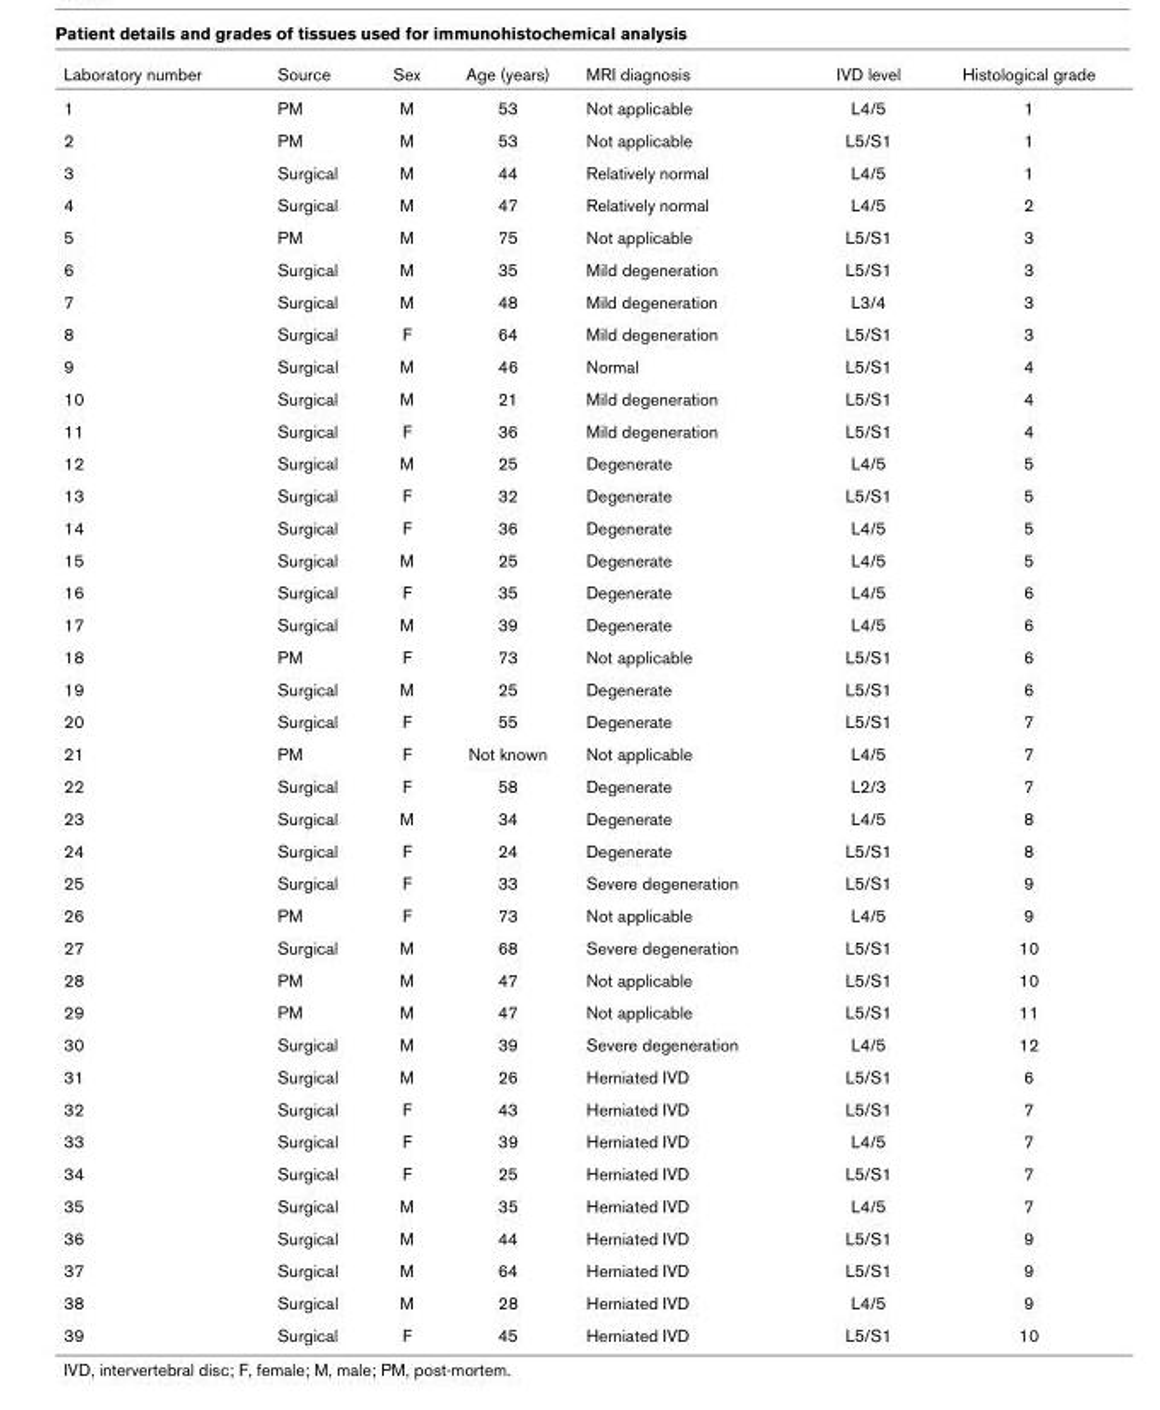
<table><thead><tr><td>Laboratory number</td><td>Source</td><td>Sex</td><td>Age (years)</td><td>MRI diagnosis</td><td>IVD level</td><td>Histological grade</td></tr></thead><tbody><tr><td>1</td><td>PM</td><td>M</td><td>53</td><td>Not applicable</td><td>L4/5</td><td>1</td></tr><tr><td>2</td><td>PM</td><td>M</td><td>53</td><td>Not applicable</td><td>L5/S1</td><td>1</td></tr><tr><td>3</td><td>Surgical</td><td>M</td><td>44</td><td>Relatively normal</td><td>L4/5</td><td>1</td></tr><tr><td>4</td><td>Surgical</td><td>M</td><td>47</td><td>Relatively normal</td><td>L4/5</td><td>2</td></tr><tr><td>5</td><td>PM</td><td>M</td><td>75</td><td>Not applicable</td><td>L5/S1</td><td>3</td></tr><tr><td>6</td><td>Surgical</td><td>M</td><td>35</td><td>Mild degeneration</td><td>L5/S1</td><td>3</td></tr><tr><td>7</td><td>Surgical</td><td>M</td><td>48</td><td>Mild degeneration</td><td>L3/4</td><td>3</td></tr><tr><td>8</td><td>Surgical</td><td>F</td><td>64</td><td>Mild degeneration</td><td>L5/S1</td><td>3</td></tr><tr><td>9</td><td>Surgical</td><td>M</td><td>46</td><td>Normal</td><td>L5/S1</td><td>4</td></tr><tr><td>10</td><td>Surgical</td><td>M</td><td>21</td><td>Mild degeneration</td><td>L5/S1</td><td>4</td></tr><tr><td>11</td><td>Surgical</td><td>F</td><td>36</td><td>Mild degeneration</td><td>L5/S1</td><td>4</td></tr><tr><td>12</td><td>Surgical</td><td>M</td><td>25</td><td>Degenerate</td><td>L4/5</td><td>5</td></tr><tr><td>13</td><td>Surgical</td><td>F</td><td>32</td><td>Degenerate</td><td>L5/S1</td><td>5</td></tr><tr><td>14</td><td>Surgical</td><td>F</td><td>36</td><td>Degenerate</td><td>L4/5</td><td>5</td></tr><tr><td>15</td><td>Surgical</td><td>M</td><td>25</td><td>Degenerate</td><td>L4/5</td><td>5</td></tr><tr><td>16</td><td>Surgical</td><td>F</td><td>35</td><td>Degenerate</td><td>L4/5</td><td>6</td></tr><tr><td>17</td><td>Surgical</td><td>M</td><td>39</td><td>Degenerate</td><td>L4/5</td><td>6</td></tr><tr><td>18</td><td>PM</td><td>F</td><td>73</td><td>Not applicable</td><td>L5/S1</td><td>6</td></tr><tr><td>19</td><td>Surgical</td><td>M</td><td>25</td><td>Degenerate</td><td>L5/S1</td><td>6</td></tr><tr><td>20</td><td>Surgical</td><td>F</td><td>55</td><td>Degenerate</td><td>L5/S1</td><td>7</td></tr><tr><td>21</td><td>PM</td><td>F</td><td>Not known</td><td>Not applicable</td><td>L4/5</td><td>7</td></tr><tr><td>22</td><td>Surgical</td><td>F</td><td>58</td><td>Degenerate</td><td>L2/3</td><td>7</td></tr><tr><td>23</td><td>Surgical</td><td>M</td><td>34</td><td>Degenerate</td><td>L4/5</td><td>8</td></tr><tr><td>24</td><td>Surgical</td><td>F</td><td>24</td><td>Degenerate</td><td>L5/S1</td><td>8</td></tr><tr><td>25</td><td>Surgical</td><td>F</td><td>33</td><td>Severe degeneration</td><td>L5/S1</td><td>9</td></tr><tr><td>26</td><td>PM</td><td>F</td><td>73</td><td>Not applicable</td><td>L4/5</td><td>9</td></tr><tr><td>27</td><td>Surgical</td><td>M</td><td>68</td><td>Severe degeneration</td><td>L5/S1</td><td>10</td></tr><tr><td>28</td><td>PM</td><td>M</td><td>47</td><td>Not applicable</td><td>L5/S1</td><td>10</td></tr><tr><td>29</td><td>PM</td><td>M</td><td>47</td><td>Not applicable</td><td>L5/S1</td><td>11</td></tr><tr><td>30</td><td>Surgical</td><td>M</td><td>39</td><td>Severe degeneration</td><td>L4/5</td><td>12</td></tr><tr><td>31</td><td>Surgical</td><td>M</td><td>26</td><td>Herniated IVD</td><td>L5/S1</td><td>6</td></tr><tr><td>32</td><td>Surgical</td><td>F</td><td>43</td><td>Herniated IVD</td><td>L5/S1</td><td>7</td></tr><tr><td>33</td><td>Surgical</td><td>F</td><td>39</td><td>Herniated IVD</td><td>L4/5</td><td>7</td></tr><tr><td>34</td><td>Surgical</td><td>F</td><td>25</td><td>Herniated IVD</td><td>L5/S1</td><td>7</td></tr><tr><td>35</td><td>Surgical</td><td>M</td><td>35</td><td>Herniated IVD</td><td>L4/5</td><td>7</td></tr><tr><td>36</td><td>Surgical</td><td>M</td><td>44</td><td>Herniated IVD</td><td>L5/S1</td><td>9</td></tr><tr><td>37</td><td>Surgical</td><td>M</td><td>64</td><td>Herniated IVD</td><td>L5/S1</td><td>9</td></tr><tr><td>38</td><td>Surgical</td><td>M</td><td>28</td><td>Herniated IVD</td><td>L4/5</td><td>9</td></tr><tr><td>39</td><td>Surgical</td><td>F</td><td>45</td><td>Herniated IVD</td><td>L5/S1</td><td>10</td></tr></tbody></table>